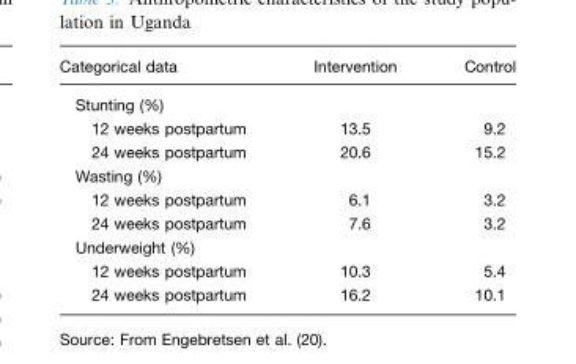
<table><thead><tr><td>Categorical data</td><td>Intervention</td><td>Control</td></tr></thead><tbody><tr><td colspan="3">Stunting (%)</td></tr><tr><td>12 weeks postpartum</td><td>13.5</td><td>9.2</td></tr><tr><td>24 weeks postpartum</td><td>20.6</td><td>15.2</td></tr><tr><td colspan="3">Wasting (%)</td></tr><tr><td>12 weeks postpartum</td><td>6.1</td><td>3.2</td></tr><tr><td>24 weeks postpartum</td><td>7.6</td><td>3.2</td></tr><tr><td colspan="3">Underweight (%)</td></tr><tr><td>12 weeks postpartum</td><td>10.3</td><td>5.4</td></tr><tr><td>24 weeks postpartum</td><td>16.2</td><td>10.1</td></tr></tbody></table>